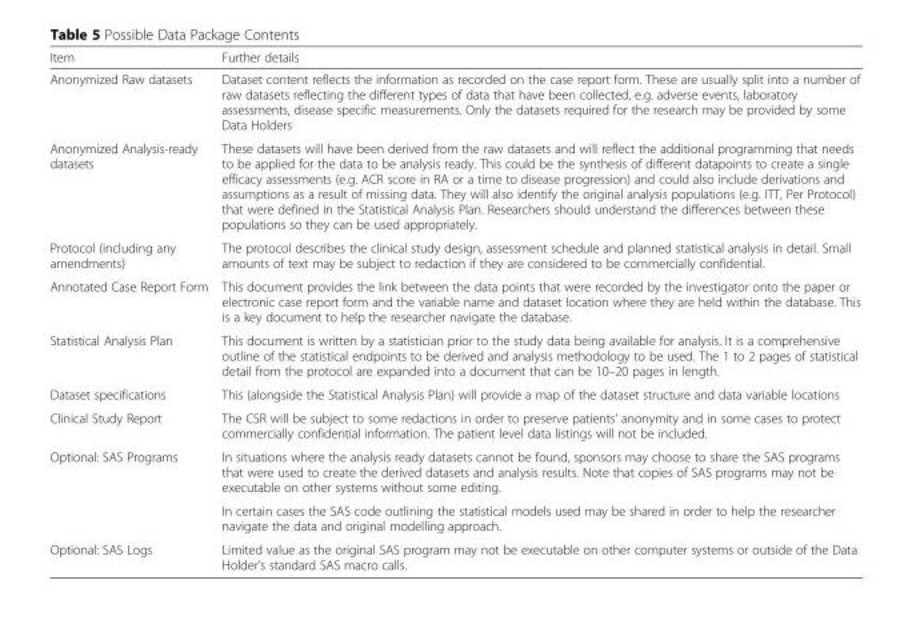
<table><thead><tr><td>Item</td><td>Further details</td></tr></thead><tbody><tr><td>Anonymized Raw datasets</td><td>Dataset content reflects the information as recorded on the case report form. These are usually split into a number of raw datasets reflecting the different types of data that have been collected, e.g. adverse events, laboratory assessments, disease specific measurements. Only the datasets required for the research may be provided by some Data Holders</td></tr><tr><td>Anonymized Analysis-ready datasets</td><td>These datasets will have been derived from the raw datasets and will reflect the additional programming that needs to be applied for the data to be analysis ready. This could be the synthesis of different datapoints to create a single efficacy assessments (e.g. ACR score in RA or a time to disease progression) and could also include derivations and assumptions as a result of missing data. They will also identify the original analysis populations (e.g. ITT, Per Protocol) that were defined in the Statistical Analysis Plan. Researchers should understand the differences between these populations so they can be used appropriately.</td></tr><tr><td>Protocol (including any amendments)</td><td>The protocol describes the clinical study design, assessment schedule and planned statistical analysis in detail. Small amounts of text may be subject to redaction if they are considered to be commercially confidential.</td></tr><tr><td>Annotated Case Report Form</td><td>This document provides the link between the data points that were recorded by the investigator onto the paper or electronic case report form and the variable name and dataset location where they are held within the database. This is a key document to help the researcher navigate the database.</td></tr><tr><td>Statistical Analysis Plan</td><td>This document is written by a statistician prior to the study data being available for analysis. It is a comprehensive outline of the statistical endpoints to be derived and analysis methodology to be used. The 1 to 2 pages of statistical detail from the protocol are expanded into a document that can be 10–20 pages in length.</td></tr><tr><td>Dataset specifications</td><td>This (alongside the Statistical Analysis Plan) will provide a map of the dataset structure and data variable locations</td></tr><tr><td>Clinical Study Report</td><td>The CSR will be subject to some redactions in order to preserve patients’ anonymity and in some cases to protect commercially confidential information. The patient level data listings will not be included.</td></tr><tr><td rowspan="2">Optional: SAS Programs</td><td>In situations where the analysis ready datasets cannot be found, sponsors may choose to share the SAS programs that were used to create the derived datasets and analysis results. Note that copies of SAS programs may not be executable on other systems without some editing.</td></tr><tr><td>In certain cases the SAS code outlining the statistical models used may be shared in order to help the researcher navigate the data and original modelling approach.</td></tr><tr><td>Optional: SAS Logs</td><td>Limited value as the original SAS program may not be executable on other computer systems or outside of the Data Holder’s standard SAS macro calls.</td></tr></tbody></table>